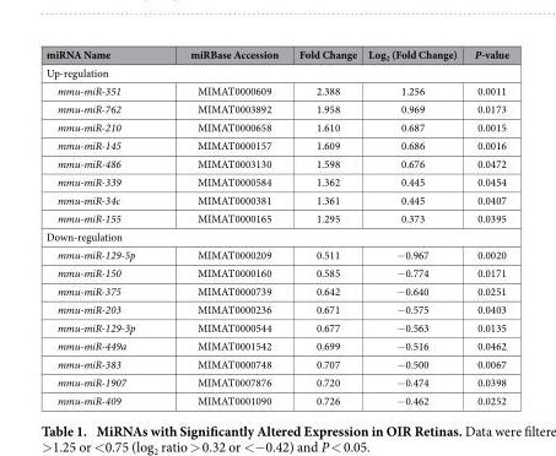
<table><thead><tr><td>miRNA Name</td><td>miRBase Accession</td><td>Fold Change</td><td>Log<sub>2</sub> (Fold Change)</td><td>P-value</td></tr></thead><tbody><tr><td colspan="5">Up-regulation</td></tr><tr><td>mmu-miR-351</td><td>MIMAT0000609</td><td>2.388</td><td>1.256</td><td>0.0011</td></tr><tr><td>mmu-miR-762</td><td>MIMAT0003892</td><td>1.958</td><td>0.969</td><td>0.0173</td></tr><tr><td>mmu-miR-210</td><td>MIMAT0000658</td><td>1.610</td><td>0.687</td><td>0.0015</td></tr><tr><td>mmu-miR-145</td><td>MIMAT0000157</td><td>1.609</td><td>0.686</td><td>0.0016</td></tr><tr><td>mmu-miR-486</td><td>MIMAT0003130</td><td>1.598</td><td>0.676</td><td>0.0472</td></tr><tr><td>mmu-miR-339</td><td>MIMAT0000584</td><td>1.362</td><td>0.445</td><td>0.0454</td></tr><tr><td>mmu-miR-34c</td><td>MIMAT0000381</td><td>1.361</td><td>0.445</td><td>0.0407</td></tr><tr><td>mmu-miR-155</td><td>MIMAT0000165</td><td>1.295</td><td>0.373</td><td>0.0395</td></tr><tr><td colspan="5">Down-regulation</td></tr><tr><td>mmu-miR-129-5p</td><td>MIMAT0000209</td><td>0.511</td><td>− 0.967</td><td>0.0020</td></tr><tr><td>mmu-miR-150</td><td>MIMAT0000160</td><td>0.585</td><td>− 0.774</td><td>0.0171</td></tr><tr><td>mmu-miR-375</td><td>MIMAT0000739</td><td>0.642</td><td>− 0.640</td><td>0.0251</td></tr><tr><td>mmu-miR-203</td><td>MIMAT0000236</td><td>0.671</td><td>− 0.575</td><td>0.0403</td></tr><tr><td>mmu-miR-129-3p</td><td>MIMAT0000544</td><td>0.677</td><td>− 0.563</td><td>0.0135</td></tr><tr><td>mmu-miR-449a</td><td>MIMAT0001542</td><td>0.699</td><td>− 0.516</td><td>0.0462</td></tr><tr><td>mmu-miR-383</td><td>MIMAT0000748</td><td>0.707</td><td>− 0.500</td><td>0.0067</td></tr><tr><td>mmu-miR-1907</td><td>MIMAT0007876</td><td>0.720</td><td>− 0.474</td><td>0.0398</td></tr><tr><td>mmu-miR-409</td><td>MIMAT0001090</td><td>0.726</td><td>− 0.462</td><td>0.0252</td></tr></tbody></table>